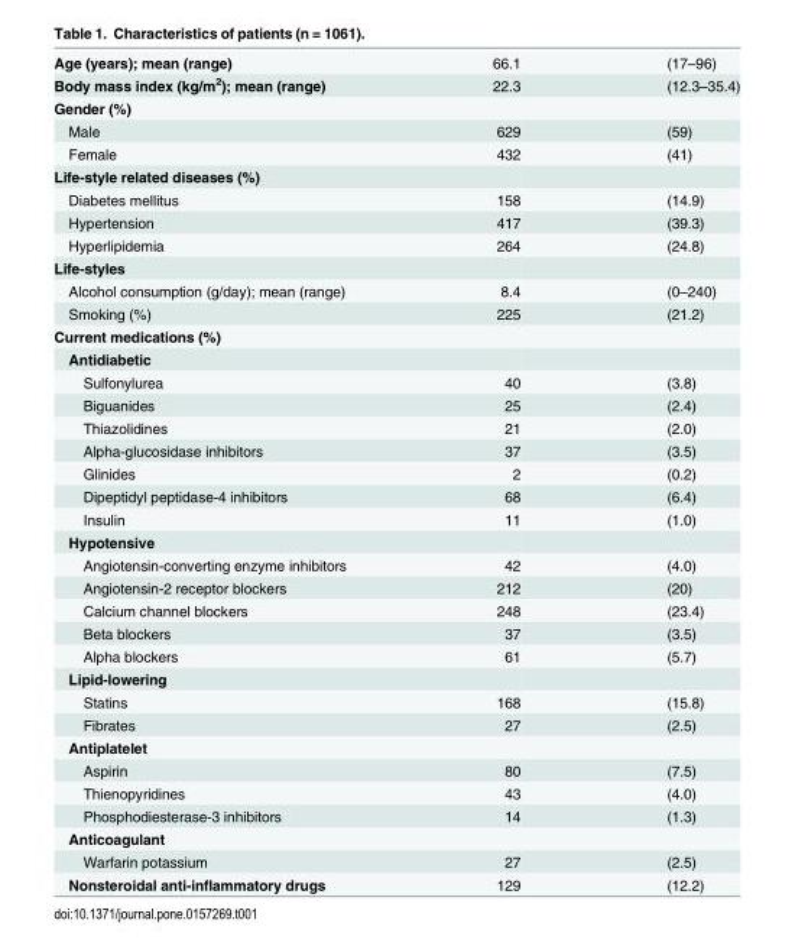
<table><tbody><tr><td>Age (years); mean (range)</td><td>66.1</td><td>(17–96)</td></tr><tr><td>Body mass index (kg/m<sup>2</sup>); mean (range)</td><td>22.3</td><td>(12.3–35.4)</td></tr><tr><td colspan="3">Gender (%)</td></tr><tr><td>Male</td><td>629</td><td>(59)</td></tr><tr><td>Female</td><td>432</td><td>(41)</td></tr><tr><td colspan="3">Life-style related diseases (%)</td></tr><tr><td>Diabetes mellitus</td><td>158</td><td>(14.9)</td></tr><tr><td>Hypertension</td><td>417</td><td>(39.3)</td></tr><tr><td>Hyperlipidemia</td><td>264</td><td>(24.8)</td></tr><tr><td colspan="3">Life-styles</td></tr><tr><td>Alcohol consumption (g/day); mean (range)</td><td>8.4</td><td>(0–240)</td></tr><tr><td>Smoking (%)</td><td>225</td><td>(21.2)</td></tr><tr><td colspan="3">Current medications (%)</td></tr><tr><td colspan="3">Antidiabetic</td></tr><tr><td>Sulfonylurea</td><td>40</td><td>(3.8)</td></tr><tr><td>Biguanides</td><td>25</td><td>(2.4)</td></tr><tr><td>Thiazolidines</td><td>21</td><td>(2.0)</td></tr><tr><td>Alpha-glucosidase inhibitors</td><td>37</td><td>(3.5)</td></tr><tr><td>Glinides</td><td>2</td><td>(0.2)</td></tr><tr><td>Dipeptidyl peptidase-4 inhibitors</td><td>68</td><td>(6.4)</td></tr><tr><td>Insulin</td><td>11</td><td>(1.0)</td></tr><tr><td colspan="3">Hypotensive</td></tr><tr><td>Angiotensin-converting enzyme inhibitors</td><td>42</td><td>(4.0)</td></tr><tr><td>Angiotensin-2 receptor blockers</td><td>212</td><td>(20)</td></tr><tr><td>Calcium channel blockers</td><td>248</td><td>(23.4)</td></tr><tr><td>Beta blockers</td><td>37</td><td>(3.5)</td></tr><tr><td>Alpha blockers</td><td>61</td><td>(5.7)</td></tr><tr><td colspan="3">Lipid-lowering</td></tr><tr><td>Statins</td><td>168</td><td>(15.8)</td></tr><tr><td>Fibrates</td><td>27</td><td>(2.5)</td></tr><tr><td colspan="3">Antiplatelet</td></tr><tr><td>Aspirin</td><td>80</td><td>(7.5)</td></tr><tr><td>Thienopyridines</td><td>43</td><td>(4.0)</td></tr><tr><td>Phosphodiesterase-3 inhibitors</td><td>14</td><td>(1.3)</td></tr><tr><td colspan="3">Anticoagulant</td></tr><tr><td>Warfarin potassium</td><td>27</td><td>(2.5)</td></tr><tr><td>Nonsteroidal anti-inflammatory drugs</td><td>129</td><td>(12.2)</td></tr></tbody></table>